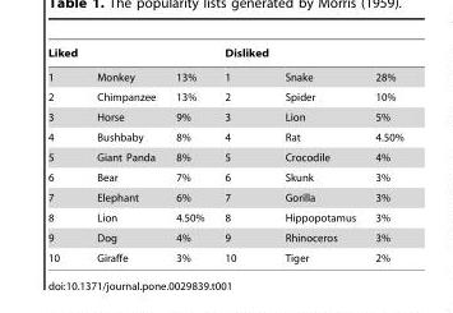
<table><thead><tr><td>Liked</td><td></td><td></td><td>Disliked</td><td></td><td></td></tr></thead><tbody><tr><td>1</td><td>Monkey</td><td>13%</td><td>1</td><td>Snake</td><td>28%</td></tr><tr><td>2</td><td>Chimpanzee</td><td>13%</td><td>2</td><td>Spider</td><td>10%</td></tr><tr><td>3</td><td>Horse</td><td>9%</td><td>3</td><td>Lion</td><td>5%</td></tr><tr><td>4</td><td>Bushbaby</td><td>8%</td><td>4</td><td>Rat</td><td>4.50%</td></tr><tr><td>5</td><td>Giant Panda</td><td>8%</td><td>5</td><td>Crocodile</td><td>4%</td></tr><tr><td>6</td><td>Bear</td><td>7%</td><td>6</td><td>Skunk</td><td>3%</td></tr><tr><td>7</td><td>Elephant</td><td>6%</td><td>7</td><td>Gorilla</td><td>3%</td></tr><tr><td>8</td><td>Lion</td><td>4.50%</td><td>8</td><td>Hippopotamus</td><td>3%</td></tr><tr><td>9</td><td>Dog</td><td>4%</td><td>9</td><td>Rhinoceros</td><td>3%</td></tr><tr><td>10</td><td>Giraffe</td><td>3%</td><td>10</td><td>Tiger</td><td>2%</td></tr></tbody></table>